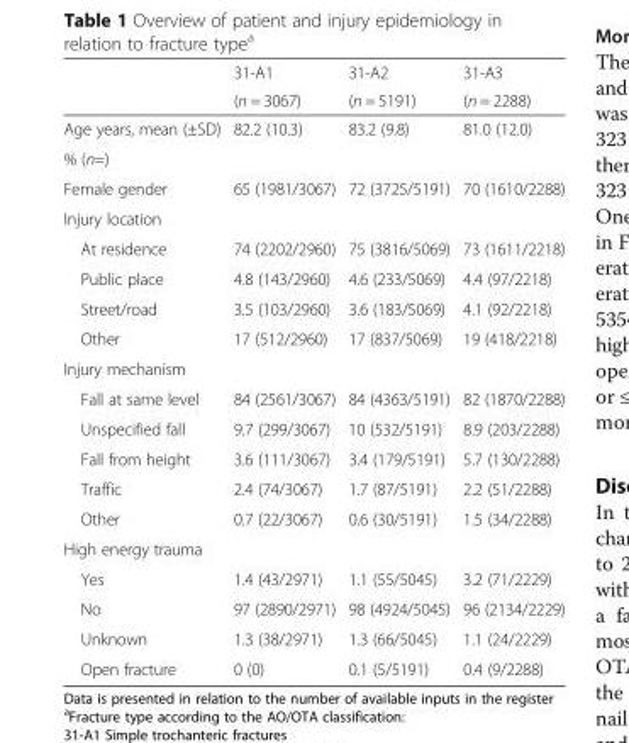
<table><thead><tr><td rowspan="2"></td><td rowspan="2">31-A1 (n = 3067)</td><td rowspan="2">31-A2 (n = 5191)</td><td rowspan="2">31-A3 (n = 2288)</td></tr><tr></tr></thead><tbody><tr><td>Age years, mean (±SD)</td><td>82.2 (10.3)</td><td>83.2 (9.8)</td><td>81.0 (12.0)</td></tr><tr><td colspan="4">% (n=)</td></tr><tr><td>Female gender</td><td>65 (1981/3067)</td><td>72 (3725/5191)</td><td>70 (1610/2288)</td></tr><tr><td colspan="4">Injury location</td></tr><tr><td>At residence</td><td>74 (2202/2960)</td><td>75 (3816/5069)</td><td>73 (1611/2218)</td></tr><tr><td>Public place</td><td>4.8 (143/2960)</td><td>4.6 (233/5069)</td><td>4.4 (97/2218)</td></tr><tr><td>Street/road</td><td>3.5 (103/2960)</td><td>3.6 (183/5069)</td><td>4.1 (92/2218)</td></tr><tr><td>Other</td><td>17 (512/2960)</td><td>17 (837/5069)</td><td>19 (418/2218)</td></tr><tr><td colspan="4">Injury mechanism</td></tr><tr><td>Fall at same level</td><td>84 (2561/3067)</td><td>84 (4363/5191)</td><td>82 (1870/2288)</td></tr><tr><td>Unspecified fall</td><td>9.7 (299/3067)</td><td>10 (532/5191)</td><td>8.9 (203/2288)</td></tr><tr><td>Fall from height</td><td>3.6 (111/3067)</td><td>3.4 (179/5191)</td><td>5.7 (130/2288)</td></tr><tr><td>Traffic</td><td>2.4 (74/3067)</td><td>1.7 (87/5191)</td><td>2.2 (51/2288)</td></tr><tr><td>Other</td><td>0.7 (22/3067)</td><td>0.6 (30/5191)</td><td>1.5 (34/2288)</td></tr><tr><td colspan="4">High energy trauma</td></tr><tr><td>Yes</td><td>1.4 (43/2971)</td><td>1.1 (55/5045)</td><td>3.2 (71/2229)</td></tr><tr><td>No</td><td>97 (2890/2971)</td><td>98 (4924/5045)</td><td>96 (2134/2229)</td></tr><tr><td>Unknown</td><td>1.3 (38/2971)</td><td>1.3 (66/5045)</td><td>1.1 (24/2229)</td></tr><tr><td>Open fracture</td><td>0 (0)</td><td>0.1 (5/5191)</td><td>0.4 (9/2288)</td></tr></tbody></table>